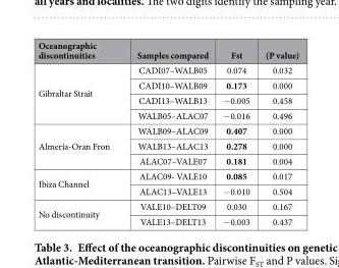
<table><thead><tr><td>Oceanographic discontinuities</td><td>Samples compared</td><td>Fst</td><td>(P value)</td></tr></thead><tbody><tr><td rowspan="4">Gibraltar Strait</td><td>CADI07–WALB05</td><td>0.074</td><td>0.032</td></tr><tr><td>CADI10–WALB09</td><td>0.173</td><td>0.000</td></tr><tr><td>CADI13–WALB13</td><td>− 0.005</td><td>0.458</td></tr><tr><td>WALB05–ALAC07</td><td>− 0.016</td><td>0.496</td></tr><tr><td rowspan="3">Almería-Oran Fron</td><td>WALB09–ALAC09</td><td>0.407</td><td>0.000</td></tr><tr><td>WALB13–ALAC13</td><td>0.278</td><td>0.000</td></tr><tr><td>ALAC07–VALE07</td><td>0.181</td><td>0.004</td></tr><tr><td rowspan="2">Ibiza Channel</td><td>ALAC09- VALE10</td><td>0.085</td><td>0.017</td></tr><tr><td>ALAC13–VALE13</td><td>− 0.010</td><td>0.504</td></tr><tr><td rowspan="2">No discontinuity</td><td>VALE10–DELT09</td><td>0.030</td><td>0.167</td></tr><tr><td>VALE13–DELT13</td><td>− 0.003</td><td>0.437</td></tr></tbody></table>